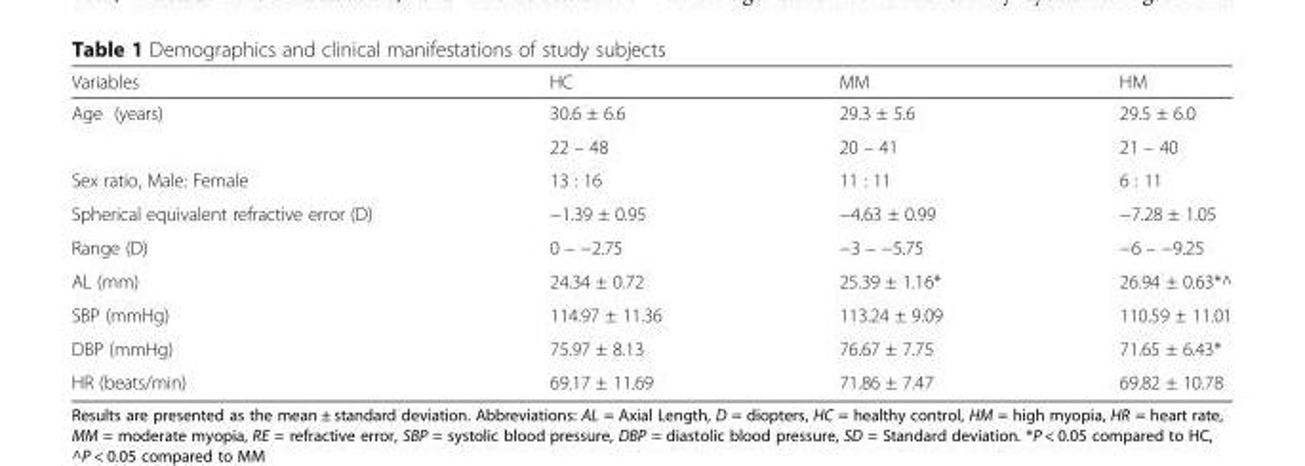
<table><thead><tr><td>Variables</td><td>HC</td><td>MM</td><td>HM</td></tr></thead><tbody><tr><td rowspan="2">Age (years)</td><td>30.6 ± 6.6</td><td>29.3 ± 5.6</td><td>29.5 ± 6.0</td></tr><tr><td>22 – 48</td><td>20 – 41</td><td>21 – 40</td></tr><tr><td>Sex ratio, Male: Female</td><td>13 : 16</td><td>11 : 11</td><td>6 : 11</td></tr><tr><td>Spherical equivalent refractive error (D)</td><td>−1.39 ± 0.95</td><td>−4.63 ± 0.99</td><td>−7.28 ± 1.05</td></tr><tr><td>Range (D)</td><td>0 – −2.75</td><td>−3 – −5.75</td><td>−6 – −9.25</td></tr><tr><td>AL (mm)</td><td>24.34 ± 0.72</td><td>25.39 ± 1.16*</td><td>26.94 ± 0.63*^</td></tr><tr><td>SBP (mmHg)</td><td>114.97 ± 11.36</td><td>113.24 ± 9.09</td><td>110.59 ± 11.01</td></tr><tr><td>DBP (mmHg)</td><td>75.97 ± 8.13</td><td>76.67 ± 7.75</td><td>71.65 ± 6.43*</td></tr><tr><td>HR (beats/min)</td><td>69.17 ± 11.69</td><td>71.86 ± 7.47</td><td>69.82 ± 10.78</td></tr></tbody></table>